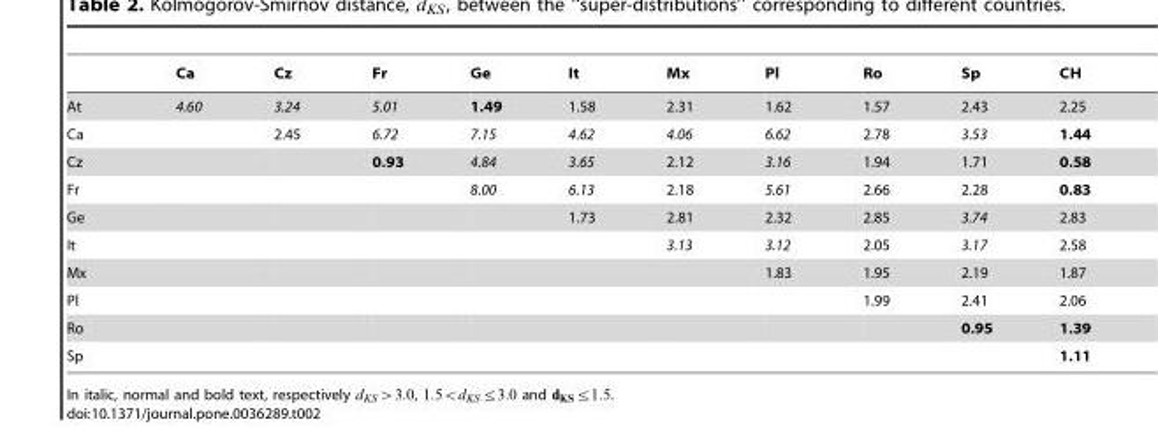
<table><thead><tr><td></td><td>Ca</td><td>Cz</td><td>Fr</td><td>Ge</td><td>It</td><td>Mx</td><td>Pl</td><td>Ro</td><td>Sp</td><td>CH</td></tr></thead><tbody><tr><td>At</td><td>4.60</td><td>3.24</td><td>5.01</td><td>1.49</td><td>1.58</td><td>2.31</td><td>1.62</td><td>1.57</td><td>2.43</td><td>2.25</td></tr><tr><td>Ca</td><td></td><td>2.45</td><td>6.72</td><td>7.15</td><td>4.62</td><td>4.06</td><td>6.62</td><td>2.78</td><td>3.53</td><td>1.44</td></tr><tr><td>Cz</td><td></td><td></td><td>0.93</td><td>4.84</td><td>3.65</td><td>2.12</td><td>3.16</td><td>1.94</td><td>1.71</td><td>0.58</td></tr><tr><td>Fr</td><td></td><td></td><td></td><td>8.00</td><td>6.13</td><td>2.18</td><td>5.61</td><td>2.66</td><td>2.28</td><td>0.83</td></tr><tr><td>Ge</td><td></td><td></td><td></td><td></td><td>1.73</td><td>2.81</td><td>2.32</td><td>2.85</td><td>3.74</td><td>2.83</td></tr><tr><td>It</td><td></td><td></td><td></td><td></td><td></td><td>3.13</td><td>3.12</td><td>2.05</td><td>3.17</td><td>2.58</td></tr><tr><td>Mx</td><td></td><td></td><td></td><td></td><td></td><td></td><td>1.83</td><td>1.95</td><td>2.19</td><td>1.87</td></tr><tr><td>Pl</td><td></td><td></td><td></td><td></td><td></td><td></td><td></td><td>1.99</td><td>2.41</td><td>2.06</td></tr><tr><td>Ro</td><td></td><td></td><td></td><td></td><td></td><td></td><td></td><td></td><td>0.95</td><td>1.39</td></tr><tr><td>Sp</td><td></td><td></td><td></td><td></td><td></td><td></td><td></td><td></td><td></td><td>1.11</td></tr></tbody></table>